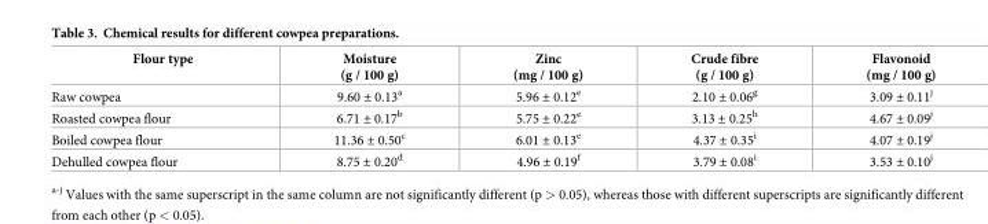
<table><thead><tr><td>Flour type</td><td>Moisture (g / 100 g)</td><td>Zinc (mg / 100 g)</td><td>Crude fibre (g / 100 g)</td><td>Flavonoid (mg / 100 g)</td></tr></thead><tbody><tr><td>Raw cowpea</td><td>9.60 ± 0.13<sup>a</sup></td><td>5.96 ± 0.12<sup>e</sup></td><td>2.10 ± 0.06<sup>g</sup></td><td>3.09 ± 0.11<sup>j</sup></td></tr><tr><td>Roasted cowpea flour</td><td>6.71 ± 0.17<sup>b</sup></td><td>5.75 ± 0.22<sup>e</sup></td><td>3.13 ± 0.25<sup>h</sup></td><td>4.67 ± 0.09<sup>j</sup></td></tr><tr><td>Boiled cowpea flour</td><td>11.36 ± 0.50<sup>c</sup></td><td>6.01 ± 0.13<sup>e</sup></td><td>4.37 ± 0.35<sup>i</sup></td><td>4.07 ± 0.19<sup>j</sup></td></tr><tr><td>Dehulled cowpea flour</td><td>8.75 ± 0.20<sup>d</sup></td><td>4.96 ± 0.19<sup>f</sup></td><td>3.79 ± 0.08<sup>i</sup></td><td>3.53 ± 0.10<sup>j</sup></td></tr></tbody></table>